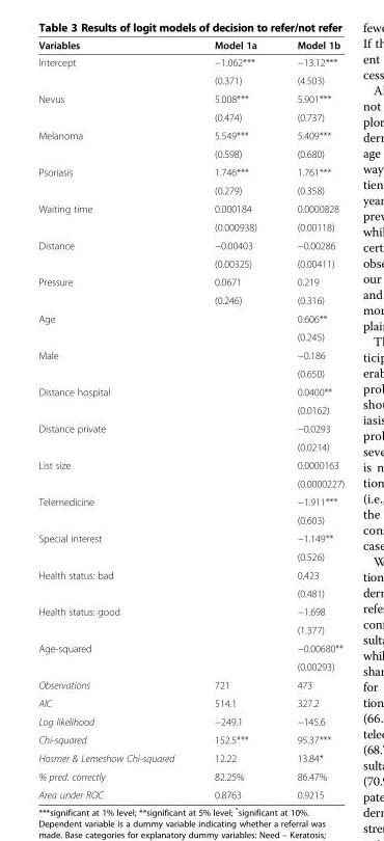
<table><thead><tr><td>Variables</td><td>Model 1a</td><td>Model 1b</td></tr></thead><tbody><tr><td rowspan="2">Intercept</td><td>−1.062***</td><td>−13.12***</td></tr><tr><td>(0.371)</td><td>(4.503)</td></tr><tr><td rowspan="2">Nevus</td><td>5.008***</td><td>5.901***</td></tr><tr><td>(0.474)</td><td>(0.737)</td></tr><tr><td rowspan="2">Melanoma</td><td>5.549***</td><td>5.409***</td></tr><tr><td>(0.598)</td><td>(0.680)</td></tr><tr><td rowspan="2">Psoriasis</td><td>1.746***</td><td>1.761***</td></tr><tr><td>(0.279)</td><td>(0.358)</td></tr><tr><td rowspan="2">Waiting time</td><td>0.000184</td><td>0.0000828</td></tr><tr><td>(0.000938)</td><td>(0.00118)</td></tr><tr><td rowspan="2">Distance</td><td>−0.00403</td><td>−0.00286</td></tr><tr><td>(0.00325)</td><td>(0.00411)</td></tr><tr><td rowspan="2">Pressure</td><td>0.0671</td><td>0.219</td></tr><tr><td>(0.246)</td><td>(0.316)</td></tr><tr><td rowspan="2">Age</td><td></td><td>0.606**</td></tr><tr><td></td><td>(0.245)</td></tr><tr><td rowspan="2">Male</td><td></td><td>−0.186</td></tr><tr><td></td><td>(0.650)</td></tr><tr><td rowspan="2">Distance hospital</td><td></td><td>0.0400**</td></tr><tr><td></td><td>(0.0162)</td></tr><tr><td rowspan="2">Distance private</td><td></td><td>−0.0293</td></tr><tr><td></td><td>(0.0214)</td></tr><tr><td rowspan="2">List size</td><td></td><td>0.0000163</td></tr><tr><td></td><td>(0.0000227)</td></tr><tr><td rowspan="2">Telemedicine</td><td></td><td>−1.911***</td></tr><tr><td></td><td>(0.603)</td></tr><tr><td rowspan="2">Special interest</td><td></td><td>−1.149**</td></tr><tr><td></td><td>(0.526)</td></tr><tr><td rowspan="2">Health status: bad</td><td></td><td>0.423</td></tr><tr><td></td><td>(0.481)</td></tr><tr><td rowspan="2">Health status: good</td><td></td><td>−1.698</td></tr><tr><td></td><td>(1.377)</td></tr><tr><td rowspan="2">Age-squared</td><td></td><td>−0.00680**</td></tr><tr><td></td><td>(0.00293)</td></tr><tr><td>Observations</td><td>721</td><td>473</td></tr><tr><td>AIC</td><td>514.1</td><td>327.2</td></tr><tr><td>Log likelihood</td><td>−249.1</td><td>−145.6</td></tr><tr><td>Chi-squared</td><td>152.5***</td><td>95.37***</td></tr><tr><td>Hosmer &amp; Lemeshow Chi-squared</td><td>12.22</td><td>13.84*</td></tr><tr><td>% pred. correctly</td><td>82.25%</td><td>86.47%</td></tr><tr><td>Area under ROC</td><td>0.8763</td><td>0.9215</td></tr></tbody></table>